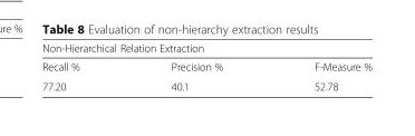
<table><thead><tr><td colspan="3">Non-Hierarchical Relation Extraction</td></tr><tr><td>Recall %</td><td>Precision %</td><td>F-Measure %</td></tr></thead><tbody><tr><td>77.20</td><td>40.1</td><td>52.78</td></tr></tbody></table>